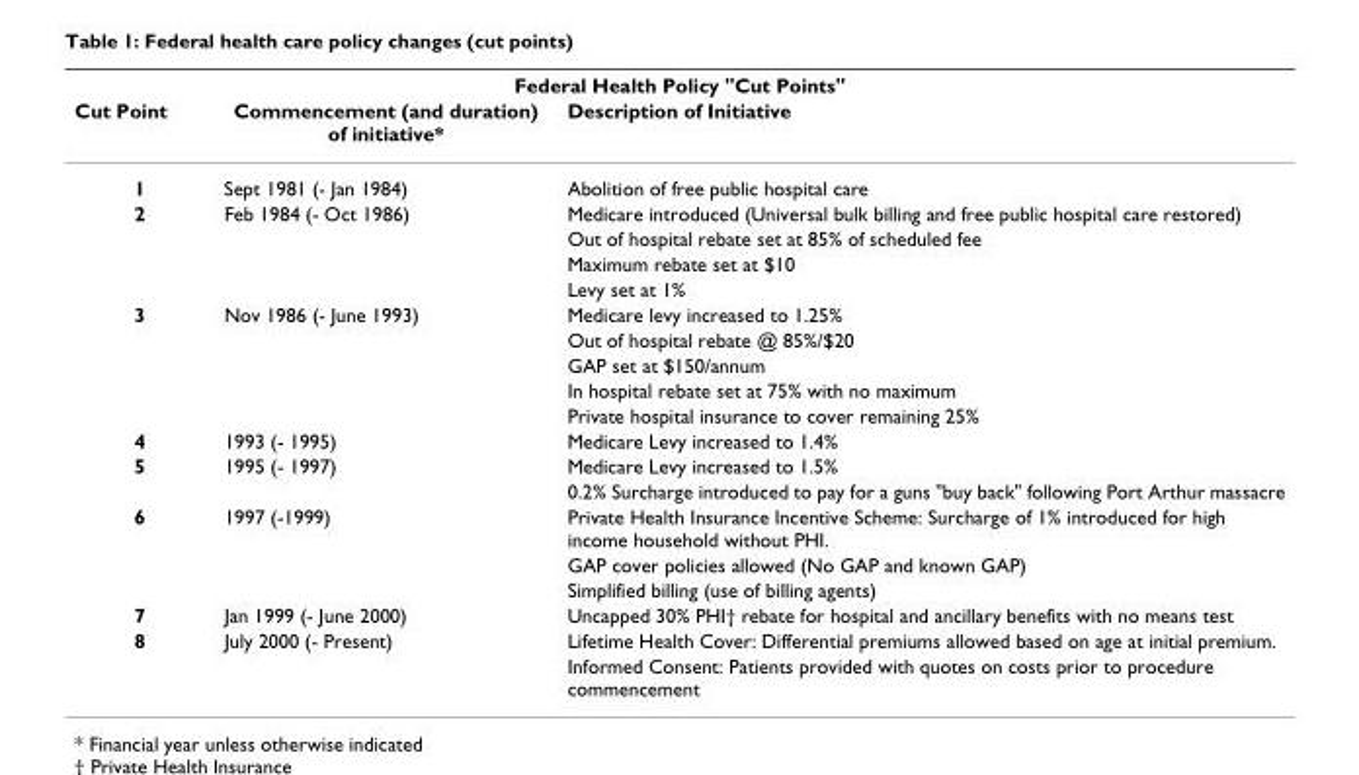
<table><thead><tr><td colspan="3">Federal Health Policy &quot;Cut Points&quot;</td></tr><tr><td>Cut Point</td><td>Commencement (and duration) of initiative*</td><td>Description of Initiative</td></tr></thead><tbody><tr><td>1</td><td>Sept 1981 (- Jan 1984)</td><td>Abolition of free public hospital care</td></tr><tr><td rowspan="4">2</td><td>Feb 1984 (- Oct 1986)</td><td>Medicare introduced (Universal bulk billing and free public hospital care restored)</td></tr><tr><td></td><td>Out of hospital rebate set at 85% of scheduled fee</td></tr><tr><td></td><td>Maximum rebate set at $10</td></tr><tr><td></td><td>Levy set at 1%</td></tr><tr><td rowspan="5">3</td><td>Nov 1986 (- June 1993)</td><td>Medicare levy increased to 1.25%</td></tr><tr><td></td><td>Out of hospital rebate @ 85%/$20</td></tr><tr><td></td><td>GAP set at $150/annum</td></tr><tr><td></td><td>In hospital rebate set at 75% with no maximum</td></tr><tr><td></td><td>Private hospital insurance to cover remaining 25%</td></tr><tr><td>4</td><td>1993 (- 1995)</td><td>Medicare Levy increased to 1.4%</td></tr><tr><td rowspan="2">5</td><td>1995 (- 1997)</td><td>Medicare Levy increased to 1.5%</td></tr><tr><td></td><td>0.2% Surcharge introduced to pay for a guns &quot;buy back&quot; following Port Arthur massacre</td></tr><tr><td rowspan="3">6</td><td>1997 (-1999)</td><td>Private Health Insurance Incentive Scheme: Surcharge of 1% introduced for high income household without PHI.</td></tr><tr><td></td><td>GAP cover policies allowed (No GAP and known GAP)</td></tr><tr><td></td><td>Simplified billing (use of billing agents)</td></tr><tr><td>7</td><td>Jan 1999 (- June 2000)</td><td>Uncapped 30% PHI† rebate for hospital and ancillary benefits with no means test</td></tr><tr><td rowspan="2">8</td><td>July 2000 (- Present)</td><td>Lifetime Health Cover: Differential premiums allowed based on age at initial premium.</td></tr><tr><td></td><td>Informed Consent: Patients provided with quotes on costs prior to procedure commencement</td></tr></tbody></table>